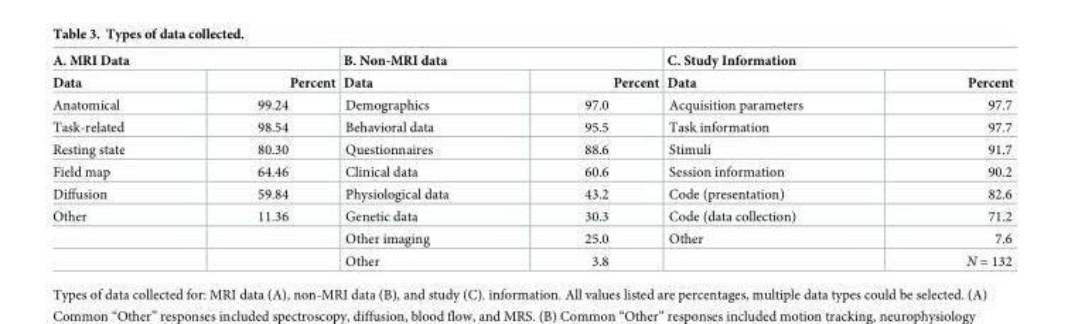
<table><thead><tr><td colspan="2">A. MRI Data</td><td colspan="2">B. Non-MRI data</td><td colspan="2">C. Study Information</td></tr><tr><td>Data</td><td>Percent</td><td>Data</td><td>Percent</td><td>Data</td><td>Percent</td></tr></thead><tbody><tr><td>Anatomical</td><td>99.24</td><td>Demographics</td><td>97.0</td><td>Acquisition parameters</td><td>97.7</td></tr><tr><td>Task-related</td><td>98.54</td><td>Behavioral data</td><td>95.5</td><td>Task information</td><td>97.7</td></tr><tr><td>Resting state</td><td>80.30</td><td>Questionnaires</td><td>88.6</td><td>Stimuli</td><td>91.7</td></tr><tr><td>Field map</td><td>64.46</td><td>Clinical data</td><td>60.6</td><td>Session information</td><td>90.2</td></tr><tr><td>Diffusion</td><td>59.84</td><td>Physiological data</td><td>43.2</td><td>Code (presentation)</td><td>82.6</td></tr><tr><td rowspan="3">Other</td><td>11.36</td><td>Genetic data</td><td>30.3</td><td>Code (data collection)</td><td>71.2</td></tr><tr><td></td><td>Other imaging</td><td>25.0</td><td>Other</td><td>7.6</td></tr><tr><td></td><td>Other</td><td>3.8</td><td></td><td>N = 132</td></tr></tbody></table>